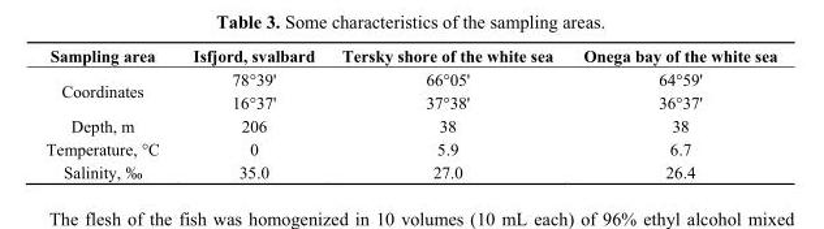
<table><thead><tr><td>Sampling area</td><td>Isfjord, svalbard</td><td>Tersky shore of the white sea</td><td>Onega bay of the white sea</td></tr></thead><tbody><tr><td>Coordinates</td><td>78°39&#x27; 16°37&#x27;</td><td>66°05&#x27; 37°38&#x27;</td><td>64°59&#x27; 36°37&#x27;</td></tr><tr><td>Depth, m</td><td>206</td><td>38</td><td>38</td></tr><tr><td>Temperature, °С</td><td>0</td><td>5.9</td><td>6.7</td></tr><tr><td>Salinity, ‰</td><td>35.0</td><td>27.0</td><td>26.4</td></tr></tbody></table>